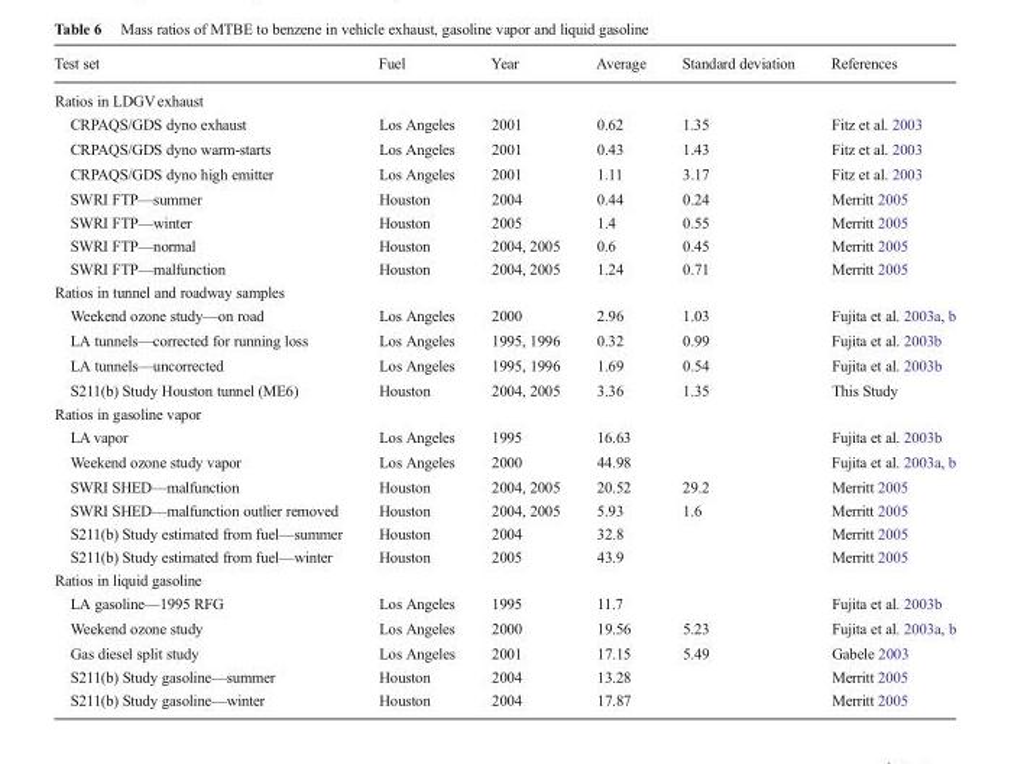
<table><thead><tr><td>Test set</td><td>Fuel</td><td>Year</td><td>Average</td><td>Standard deviation</td><td>References</td></tr></thead><tbody><tr><td colspan="6">Ratios in LDGVexhaust</td></tr><tr><td>CRPAQS/GDS dyno exhaust</td><td>Los Angeles</td><td>2001</td><td>0.62</td><td>1.35</td><td>Fitz et al. 2003</td></tr><tr><td>CRPAQS/GDS dyno warm-starts</td><td>Los Angeles</td><td>2001</td><td>0.43</td><td>1.43</td><td>Fitz et al. 2003</td></tr><tr><td>CRPAQS/GDS dyno high emitter</td><td>Los Angeles</td><td>2001</td><td>1.11</td><td>3.17</td><td>Fitz et al. 2003</td></tr><tr><td>SWRI FTP—summer</td><td>Houston</td><td>2004</td><td>0.44</td><td>0.24</td><td>Merritt 2005</td></tr><tr><td>SWRI FTP—winter</td><td>Houston</td><td>2005</td><td>1.4</td><td>0.55</td><td>Merritt 2005</td></tr><tr><td>SWRI FTP—normal</td><td>Houston</td><td>2004, 2005</td><td>0.6</td><td>0.45</td><td>Merritt 2005</td></tr><tr><td>SWRI FTP—malfunction</td><td>Houston</td><td>2004, 2005</td><td>1.24</td><td>0.71</td><td>Merritt 2005</td></tr><tr><td colspan="6">Ratios in tunnel and roadway samples</td></tr><tr><td>Weekend ozone study—on road</td><td>Los Angeles</td><td>2000</td><td>2.96</td><td>1.03</td><td>Fujita et al. 2003a, b</td></tr><tr><td>LA tunnels—corrected for running loss</td><td>Los Angeles</td><td>1995, 1996</td><td>0.32</td><td>0.99</td><td>Fujita et al. 2003b</td></tr><tr><td>LA tunnels—uncorrected</td><td>Los Angeles</td><td>1995, 1996</td><td>1.69</td><td>0.54</td><td>Fujita et al. 2003b</td></tr><tr><td>S211(b) Study Houston tunnel (ME6)</td><td>Houston</td><td>2004, 2005</td><td>3.36</td><td>1.35</td><td>This Study</td></tr><tr><td colspan="6">Ratios in gasoline vapor</td></tr><tr><td>LA vapor</td><td>Los Angeles</td><td>1995</td><td>16.63</td><td></td><td>Fujita et al. 2003b</td></tr><tr><td>Weekend ozone study vapor</td><td>Los Angeles</td><td>2000</td><td>44.98</td><td></td><td>Fujita et al. 2003a, b</td></tr><tr><td>SWRI SHED—malfunction</td><td>Houston</td><td>2004, 2005</td><td>20.52</td><td>29.2</td><td>Merritt 2005</td></tr><tr><td>SWRI SHED—malfunction outlier removed</td><td>Houston</td><td>2004, 2005</td><td>5.93</td><td>1.6</td><td>Merritt 2005</td></tr><tr><td>S211(b) Study estimated from fuel—summer</td><td>Houston</td><td>2004</td><td>32.8</td><td></td><td>Merritt 2005</td></tr><tr><td>S211(b) Study estimated from fuel—winter</td><td>Houston</td><td>2005</td><td>43.9</td><td></td><td>Merritt 2005</td></tr><tr><td colspan="6">Ratios in liquid gasoline</td></tr><tr><td>LA gasoline—1995 RFG</td><td>Los Angeles</td><td>1995</td><td>11.7</td><td></td><td>Fujita et al. 2003b</td></tr><tr><td>Weekend ozone study</td><td>Los Angeles</td><td>2000</td><td>19.56</td><td>5.23</td><td>Fujita et al. 2003a, b</td></tr><tr><td>Gas diesel split study</td><td>Los Angeles</td><td>2001</td><td>17.15</td><td>5.49</td><td>Gabele 2003</td></tr><tr><td>S211(b) Study gasoline—summer</td><td>Houston</td><td>2004</td><td>13.28</td><td></td><td>Merritt 2005</td></tr><tr><td>S211(b) Study gasoline—winter</td><td>Houston</td><td>2004</td><td>17.87</td><td></td><td>Merritt 2005</td></tr></tbody></table>